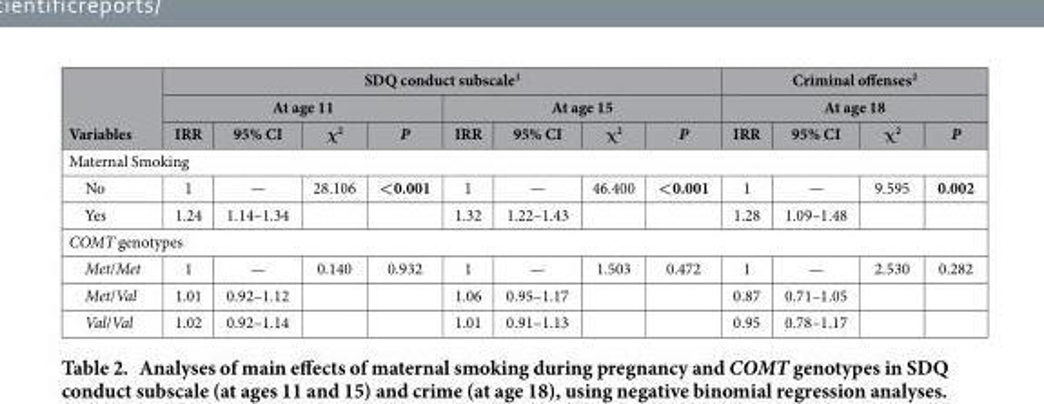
<table><thead><tr><td rowspan="3">Variables</td><td colspan="8">SDQ conduct subscale<sup>1</sup></td><td rowspan="2" colspan="4">Criminal offenses<sup>2</sup> At age 18</td></tr><tr><td colspan="4">At age 11</td><td colspan="4">At age 15</td></tr><tr><td>IRR</td><td>95% CI</td><td>χ<sup>2</sup></td><td>P</td><td>IRR</td><td>95% CI</td><td>χ<sup>2</sup></td><td>P</td><td>IRR</td><td>95% CI</td><td>χ<sup>2</sup></td><td>P</td></tr></thead><tbody><tr><td colspan="13">Maternal Smoking</td></tr><tr><td>No</td><td>1</td><td>—</td><td>28.106</td><td>&lt;0.001</td><td>1</td><td>—</td><td>46.400</td><td>&lt;0.001</td><td>1</td><td>—</td><td>9.595</td><td>0.002</td></tr><tr><td>Yes</td><td>1.24</td><td>1.14–1.34</td><td></td><td></td><td>1.32</td><td>1.22–1.43</td><td></td><td></td><td>1.28</td><td>1.09–1.48</td><td></td><td></td></tr><tr><td colspan="13">COMT genotypes</td></tr><tr><td>Met/Met</td><td>1</td><td>—</td><td>0.140</td><td>0.932</td><td>1</td><td>—</td><td>1.503</td><td>0.472</td><td>1</td><td>—</td><td>2.530</td><td>0.282</td></tr><tr><td>Met/Val</td><td>1.01</td><td>0.92–1.12</td><td></td><td></td><td>1.06</td><td>0.95–1.17</td><td></td><td></td><td>0.87</td><td>0.71–1.05</td><td></td><td></td></tr><tr><td>Val/Val</td><td>1.02</td><td>0.92–1.14</td><td></td><td></td><td>1.01</td><td>0.91–1.13</td><td></td><td></td><td>0.95</td><td>0.78–1.17</td><td></td><td></td></tr></tbody></table>